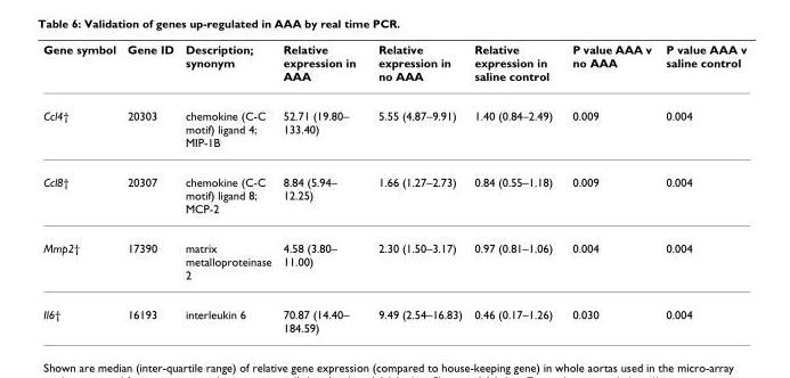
<table><thead><tr><td>Gene symbol</td><td>Gene ID</td><td>Description; synonym</td><td>Relative expression in AAA</td><td>Relative expression in no AAA</td><td>Relative expression in saline control</td><td>P value AAA v no AAA</td><td>P value AAA v saline control</td></tr></thead><tbody><tr><td>Ccl4†</td><td>20303</td><td>chemokine (C-C motif) ligand 4; MIP-1B</td><td>52.71 (19.80– 133.40)</td><td>5.55 (4.87–9.91)</td><td>1.40 (0.84–2.49)</td><td>0.009</td><td>0.004</td></tr><tr><td>Ccl8†</td><td>20307</td><td>chemokine (C-C motif) ligand 8; MCP-2</td><td>8.84 (5.94– 12.25)</td><td>1.66 (1.27–2.73)</td><td>0.84 (0.55–1.18)</td><td>0.009</td><td>0.004</td></tr><tr><td>Mmp2†</td><td>17390</td><td>matrix metalloproteinase 2</td><td>4.58 (3.80– 11.00)</td><td>2.30 (1.50–3.17)</td><td>0.97 (0.81–1.06)</td><td>0.004</td><td>0.004</td></tr><tr><td>Il6†</td><td>16193</td><td>interleukin 6</td><td>70.87 (14.40– 184.59)</td><td>9.49 (2.54–16.83)</td><td>0.46 (0.17–1.26)</td><td>0.030</td><td>0.004</td></tr></tbody></table>